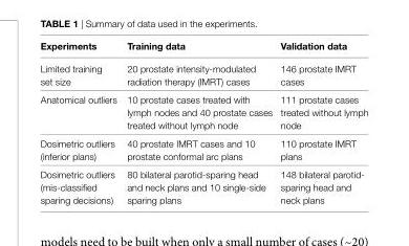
<table><thead><tr><td>experiments</td><td>Training data</td><td>Validation data</td></tr></thead><tbody><tr><td>Limited training set size</td><td>20 prostate intensity-modulated radiation therapy (IMRT) cases</td><td>146 prostate IMRT cases</td></tr><tr><td>Anatomical outliers</td><td>10 prostate cases treated with lymph nodes and 40 prostate cases treated without lymph node</td><td>111 prostate cases treated without lymph node</td></tr><tr><td>Dosimetric outliers (inferior plans)</td><td>40 prostate IMRT cases and 10 prostate conformal arc plans</td><td>110 prostate IMRT plans</td></tr><tr><td>Dosimetric outliers (mis-classified sparing decisions)</td><td>80 bilateral parotid-sparing head and neck plans and 10 single-side sparing plans</td><td>148 bilateral parotid- sparing head and neck plans</td></tr></tbody></table>